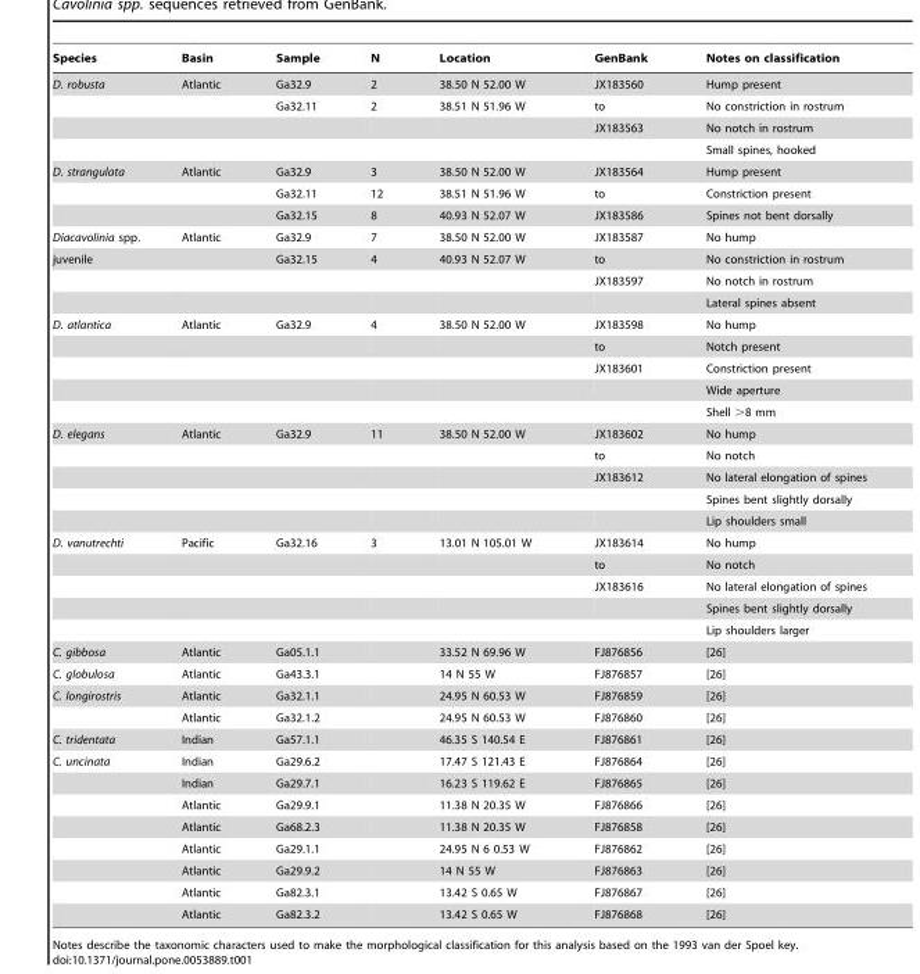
<table><thead><tr><td>Species</td><td>Basin</td><td>Sample</td><td>N</td><td>Location</td><td>GenBank</td><td>Notes on classification</td></tr></thead><tbody><tr><td rowspan="4">D. robusta</td><td>Atlantic</td><td>Ga32.9</td><td>2</td><td>38.50 N 52.00 W</td><td>JX183560</td><td>Hump present</td></tr><tr><td></td><td>Ga32.11</td><td>2</td><td>38.51 N 51.96 W</td><td>to</td><td>No constriction in rostrum</td></tr><tr><td></td><td></td><td></td><td></td><td>JX183563</td><td>No notch in rostrum</td></tr><tr><td></td><td></td><td></td><td></td><td></td><td>Small spines, hooked</td></tr><tr><td rowspan="3">D. strangulata</td><td>Atlantic</td><td>Ga32.9</td><td>3</td><td>38.50 N 52.00 W</td><td>JX183564</td><td>Hump present</td></tr><tr><td></td><td>Ga32.11</td><td>12</td><td>38.51 N 51.96 W</td><td>to</td><td>Constriction present</td></tr><tr><td></td><td>Ga32.15</td><td>8</td><td>40.93 N 52.07 W</td><td>JX183586</td><td>Spines not bent dorsally</td></tr><tr><td>Diacavolinia spp.</td><td>Atlantic</td><td>Ga32.9</td><td>7</td><td>38.50 N 52.00 W</td><td>JX183587</td><td>No hump</td></tr><tr><td rowspan="3">juvenile</td><td></td><td>Ga32.15</td><td>4</td><td>40.93 N 52.07 W</td><td>to</td><td>No constriction in rostrum</td></tr><tr><td></td><td></td><td></td><td></td><td>JX183597</td><td>No notch in rostrum</td></tr><tr><td></td><td></td><td></td><td></td><td></td><td>Lateral spines absent</td></tr><tr><td rowspan="5">D. atlantica</td><td>Atlantic</td><td>Ga32.9</td><td>4</td><td>38.50 N 52.00 W</td><td>JX183598</td><td>No hump</td></tr><tr><td></td><td></td><td></td><td></td><td>to</td><td>Notch present</td></tr><tr><td></td><td></td><td></td><td></td><td>JX183601</td><td>Constriction present</td></tr><tr><td></td><td></td><td></td><td></td><td></td><td>Wide aperture</td></tr><tr><td></td><td></td><td></td><td></td><td></td><td>Shell &gt;8 mm</td></tr><tr><td rowspan="5">D. elegans</td><td>Atlantic</td><td>Ga32.9</td><td>11</td><td>38.50 N 52.00 W</td><td>JX183602</td><td>No hump</td></tr><tr><td></td><td></td><td></td><td></td><td>to</td><td>No notch</td></tr><tr><td></td><td></td><td></td><td></td><td>JX183612</td><td>No lateral elongation of spines</td></tr><tr><td></td><td></td><td></td><td></td><td></td><td>Spines bent slightly dorsally</td></tr><tr><td></td><td></td><td></td><td></td><td></td><td>Lip shoulders small</td></tr><tr><td rowspan="5">D. vanutrechti</td><td>Pacific</td><td>Ga32.16</td><td>3</td><td>13.01 N 105.01 W</td><td>JX183614</td><td>No hump</td></tr><tr><td></td><td></td><td></td><td></td><td>to</td><td>No notch</td></tr><tr><td></td><td></td><td></td><td></td><td>JX183616</td><td>No lateral elongation of spines</td></tr><tr><td></td><td></td><td></td><td></td><td></td><td>Spines bent slightly dorsally</td></tr><tr><td></td><td></td><td></td><td></td><td></td><td>Lip shoulders larger</td></tr><tr><td>C. gibbosa</td><td>Atlantic</td><td>Ga05.1.1</td><td></td><td>33.52 N 69.96 W</td><td>FJ876856</td><td>[26]</td></tr><tr><td>C. globulosa</td><td>Atlantic</td><td>Ga43.3.1</td><td></td><td>14 N 55 W</td><td>FJ876857</td><td>[26]</td></tr><tr><td rowspan="2">C. longirostris</td><td>Atlantic</td><td>Ga32.1.1</td><td></td><td>24.95 N 60.53 W</td><td>FJ876859</td><td>[26]</td></tr><tr><td>Atlantic</td><td>Ga32.1.2</td><td></td><td>24.95 N 60.53 W</td><td>FJ876860</td><td>[26]</td></tr><tr><td>C. tridentata</td><td>Indian</td><td>Ga57.1.1</td><td></td><td>46.35 S 140.54 E</td><td>FJ876861</td><td>[26]</td></tr><tr><td rowspan="8">C. uncinata</td><td>Indian</td><td>Ga29.6.2</td><td></td><td>17.47 S 121.43 E</td><td>FJ876864</td><td>[26]</td></tr><tr><td>Indian</td><td>Ga29.7.1</td><td></td><td>16.23 S 119.62 E</td><td>FJ876865</td><td>[26]</td></tr><tr><td>Atlantic</td><td>Ga29.9.1</td><td></td><td>11.38 N 20.35 W</td><td>FJ876866</td><td>[26]</td></tr><tr><td>Atlantic</td><td>Ga68.2.3</td><td></td><td>11.38 N 20.35 W</td><td>FJ876858</td><td>[26]</td></tr><tr><td>Atlantic</td><td>Ga29.1.1</td><td></td><td>24.95 N 6 0.53 W</td><td>FJ876862</td><td>[26]</td></tr><tr><td>Atlantic</td><td>Ga29.9.2</td><td></td><td>14 N 55 W</td><td>FJ876863</td><td>[26]</td></tr><tr><td>Atlantic</td><td>Ga82.3.1</td><td></td><td>13.42 S 0.65 W</td><td>FJ876867</td><td>[26]</td></tr><tr><td>Atlantic</td><td>Ga82.3.2</td><td></td><td>13.42 S 0.65 W</td><td>FJ876868</td><td>[26]</td></tr></tbody></table>